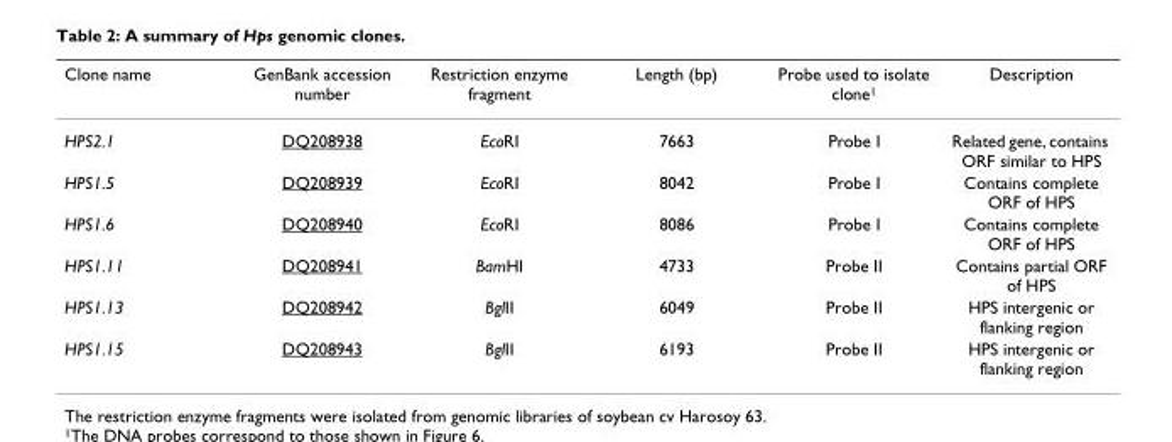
<table><thead><tr><td>Clone name</td><td>GenBank accession number</td><td>Restriction enzyme fragment</td><td>Length (bp)</td><td>Probe used to isolate clone1</td><td>Description</td></tr></thead><tbody><tr><td>HPS2.1</td><td>DQ208938</td><td>EcoRI</td><td>7663</td><td>Probe I</td><td>Related gene, contains ORF similar to HPS</td></tr><tr><td>HPS1.5</td><td>DQ208939</td><td>EcoRI</td><td>8042</td><td>Probe I</td><td>Contains complete ORF of HPS</td></tr><tr><td>HPS1.6</td><td>DQ208940</td><td>EcoRI</td><td>8086</td><td>Probe I</td><td>Contains complete ORF of HPS</td></tr><tr><td>HPS1.11</td><td>DQ208941</td><td>BamHI</td><td>4733</td><td>Probe II</td><td>Contains partial ORF of HPS</td></tr><tr><td>HPS1.13</td><td>DQ208942</td><td>BglII</td><td>6049</td><td>Probe II</td><td>HPS intergenic or flanking region</td></tr><tr><td>HPS1.15</td><td>DQ208943</td><td>BglII</td><td>6193</td><td>Probe II</td><td>HPS intergenic or flanking region</td></tr></tbody></table>